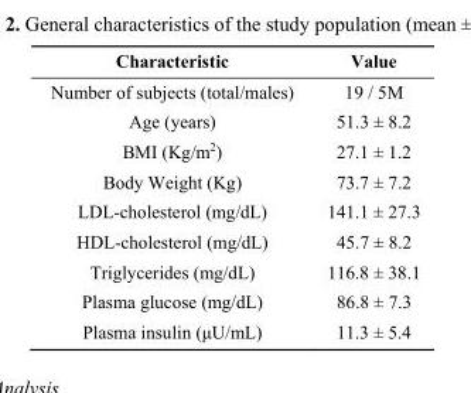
<table><thead><tr><td>Characteristic</td><td>Value</td></tr></thead><tbody><tr><td>Number of subjects (total/males)</td><td>19 / 5M</td></tr><tr><td>Age (years)</td><td>51.3 ± 8.2</td></tr><tr><td>BMI (Kg/m<sup>2</sup>)</td><td>27.1 ± 1.2</td></tr><tr><td>Body Weight (Kg)</td><td>73.7 ± 7.2</td></tr><tr><td>LDL-cholesterol (mg/dL)</td><td>141.1 ± 27.3</td></tr><tr><td>HDL-cholesterol (mg/dL)</td><td>45.7 ± 8.2</td></tr><tr><td>Triglycerides (mg/dL)</td><td>116.8 ± 38.1</td></tr><tr><td>Plasma glucose (mg/dL)</td><td>86.8 ± 7.3</td></tr><tr><td>Plasma insulin (μU/mL)</td><td>11.3 ± 5.4</td></tr></tbody></table>